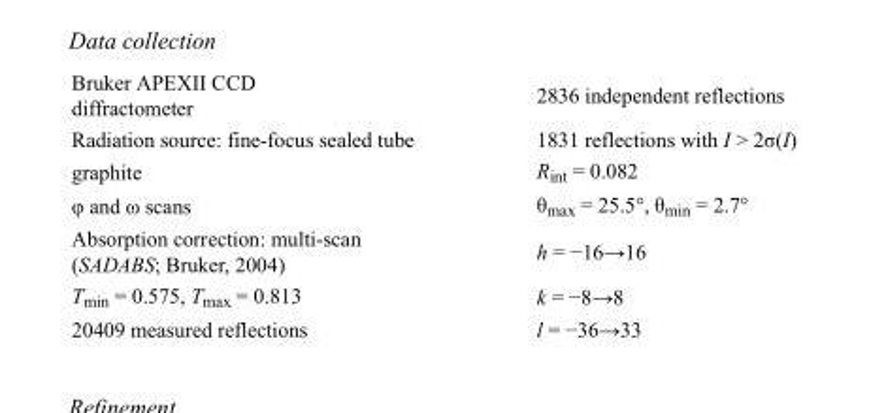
<table><tbody><tr><td>Bruker APEXII CCD diffractometer</td><td>2836 independent reflections</td></tr><tr><td>Radiation source: fine-focus sealed tube</td><td>1831 reflections with I &gt; 2σ(I)</td></tr><tr><td>graphite</td><td>R<sub>int</sub> = 0.082</td></tr><tr><td>φ and ω scans</td><td>θ<sub>max</sub> = 25.5°, θ<sub>min</sub> = 2.7°</td></tr><tr><td>Absorption correction: multi-scan (SADABS; Bruker, 2004)</td><td>h = −16→16</td></tr><tr><td>T<sub>min</sub> = 0.575, T<sub>max</sub> = 0.813</td><td>k = −8→8</td></tr><tr><td>20409 measured reflections</td><td>l = −36→33</td></tr></tbody></table>